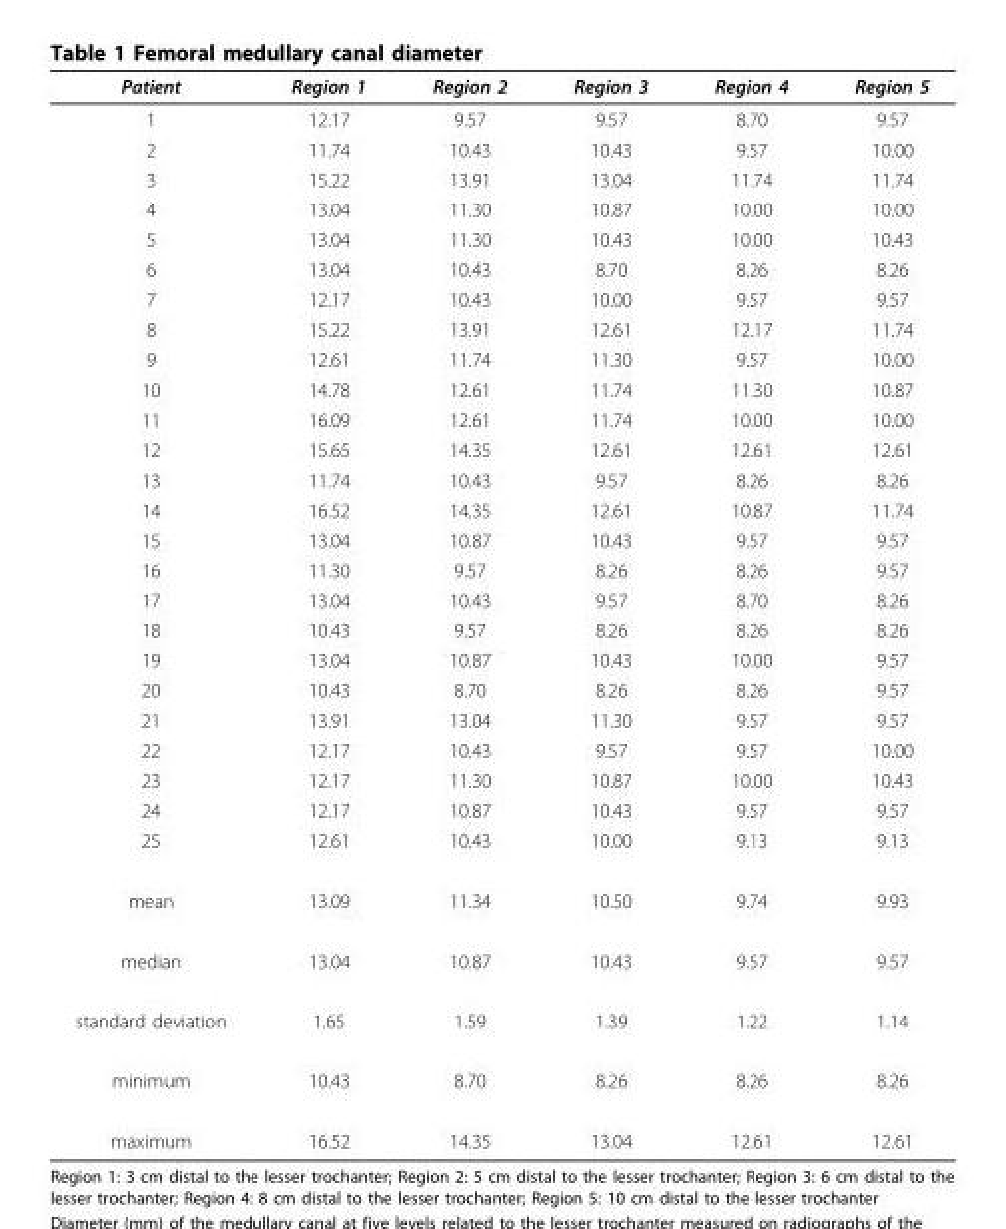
<table><thead><tr><td>Patient</td><td>Region 1</td><td>Region 2</td><td>Region 3</td><td>Region 4</td><td>Region 5</td></tr></thead><tbody><tr><td>1</td><td>12.17</td><td>9.57</td><td>9.57</td><td>8.70</td><td>9.57</td></tr><tr><td>2</td><td>11.74</td><td>10.43</td><td>10.43</td><td>9.57</td><td>10.00</td></tr><tr><td>3</td><td>15.22</td><td>13.91</td><td>13.04</td><td>11.74</td><td>11.74</td></tr><tr><td>4</td><td>13.04</td><td>11.30</td><td>10.87</td><td>10.00</td><td>10.00</td></tr><tr><td>5</td><td>13.04</td><td>11.30</td><td>10.43</td><td>10.00</td><td>10.43</td></tr><tr><td>6</td><td>13.04</td><td>10.43</td><td>8.70</td><td>8.26</td><td>8.26</td></tr><tr><td>7</td><td>12.17</td><td>10.43</td><td>10.00</td><td>9.57</td><td>9.57</td></tr><tr><td>8</td><td>15.22</td><td>13.91</td><td>12.61</td><td>12.17</td><td>11.74</td></tr><tr><td>9</td><td>12.61</td><td>11.74</td><td>11.30</td><td>9.57</td><td>10.00</td></tr><tr><td>10</td><td>14.78</td><td>12.61</td><td>11.74</td><td>11.30</td><td>10.87</td></tr><tr><td>11</td><td>16.09</td><td>12.61</td><td>11.74</td><td>10.00</td><td>10.00</td></tr><tr><td>12</td><td>15.65</td><td>14.35</td><td>12.61</td><td>12.61</td><td>12.61</td></tr><tr><td>13</td><td>11.74</td><td>10.43</td><td>9.57</td><td>8.26</td><td>8.26</td></tr><tr><td>14</td><td>16.52</td><td>14.35</td><td>12.61</td><td>10.87</td><td>11.74</td></tr><tr><td>15</td><td>13.04</td><td>10.87</td><td>10.43</td><td>9.57</td><td>9.57</td></tr><tr><td>16</td><td>11.30</td><td>9.57</td><td>8.26</td><td>8.26</td><td>9.57</td></tr><tr><td>17</td><td>13.04</td><td>10.43</td><td>9.57</td><td>8.70</td><td>8.26</td></tr><tr><td>18</td><td>10.43</td><td>9.57</td><td>8.26</td><td>8.26</td><td>8.26</td></tr><tr><td>19</td><td>13.04</td><td>10.87</td><td>10.43</td><td>10.00</td><td>9.57</td></tr><tr><td>20</td><td>10.43</td><td>8.70</td><td>8.26</td><td>8.26</td><td>9.57</td></tr><tr><td>21</td><td>13.91</td><td>13.04</td><td>11.30</td><td>9.57</td><td>9.57</td></tr><tr><td>22</td><td>12.17</td><td>10.43</td><td>9.57</td><td>9.57</td><td>10.00</td></tr><tr><td>23</td><td>12.17</td><td>11.30</td><td>10.87</td><td>10.00</td><td>10.43</td></tr><tr><td>24</td><td>12.17</td><td>10.87</td><td>10.43</td><td>9.57</td><td>9.57</td></tr><tr><td>25</td><td>12.61</td><td>10.43</td><td>10.00</td><td>9.13</td><td>9.13</td></tr><tr><td>mean</td><td>13.09</td><td>11.34</td><td>10.50</td><td>9.74</td><td>9.93</td></tr><tr><td>median</td><td>13.04</td><td>10.87</td><td>10.43</td><td>9.57</td><td>9.57</td></tr><tr><td>standard deviation</td><td>1.65</td><td>1.59</td><td>1.39</td><td>1.22</td><td>1.14</td></tr><tr><td>minimum</td><td>10.43</td><td>8.70</td><td>8.26</td><td>8.26</td><td>8.26</td></tr><tr><td>maximum</td><td>16.52</td><td>14.35</td><td>13.04</td><td>12.61</td><td>12.61</td></tr></tbody></table>